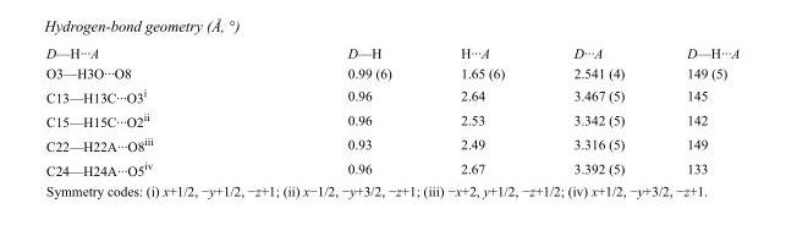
<table><tbody><tr><td>D—H···A</td><td>D—H</td><td>H···A</td><td>D···A</td><td>D—H···A</td></tr><tr><td>O3—H3O···O8</td><td>0.99 (6)</td><td>1.65 (6)</td><td>2.541 (4)</td><td>149 (5)</td></tr><tr><td>C13—H13C···O3<sup>i</sup></td><td>0.96</td><td>2.64</td><td>3.467 (5)</td><td>145</td></tr><tr><td>C15—H15C···O2<sup>ii</sup></td><td>0.96</td><td>2.53</td><td>3.342 (5)</td><td>142</td></tr><tr><td>C22—H22A···O8<sup>iii</sup></td><td>0.93</td><td>2.49</td><td>3.316 (5)</td><td>149</td></tr><tr><td>C24—H24A···O5<sup>iv</sup></td><td>0.96</td><td>2.67</td><td>3.392 (5)</td><td>133</td></tr></tbody></table>